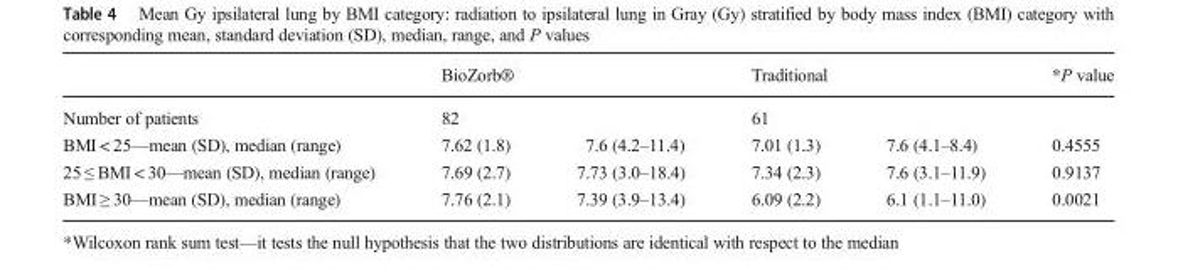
<table><thead><tr><td rowspan="3">Number of patients BMI &lt; 25—mean (SD), median (range)</td><td rowspan="2" colspan="2">BioZorb® 82</td><td rowspan="2" colspan="2">Traditional 61</td><td rowspan="3">*P value 0.4555</td></tr><tr></tr><tr><td>7.62 (1.8)</td><td>7.6 (4.2–11.4)</td><td>7.01 (1.3)</td><td>7.6 (4.1–8.4)</td></tr></thead><tbody><tr><td>25 ≤ BMI &lt; 30—mean (SD), median (range)</td><td>7.69 (2.7)</td><td>7.73 (3.0–18.4)</td><td>7.34 (2.3)</td><td>7.6 (3.1–11.9)</td><td>0.9137</td></tr><tr><td>BMI ≥ 30—mean (SD), median (range)</td><td>7.76 (2.1)</td><td>7.39 (3.9–13.4)</td><td>6.09 (2.2)</td><td>6.1 (1.1–11.0)</td><td>0.0021</td></tr></tbody></table>